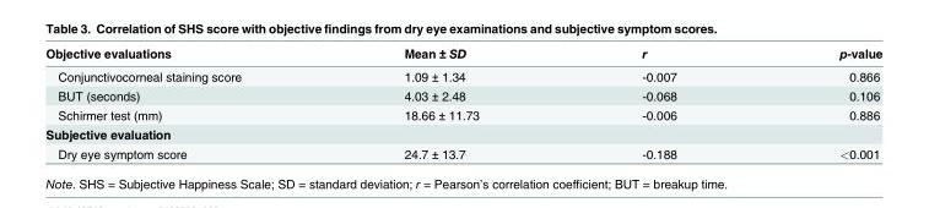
<table><thead><tr><td>Objective evaluations</td><td>Mean ± SD</td><td>r</td><td>p-value</td></tr></thead><tbody><tr><td>Conjunctivocorneal staining score</td><td>1.09 ± 1.34</td><td>-0.007</td><td>0.866</td></tr><tr><td>BUT (seconds)</td><td>4.03 ± 2.48</td><td>-0.068</td><td>0.106</td></tr><tr><td>Schirmer test (mm)</td><td>18.66 ± 11.73</td><td>-0.006</td><td>0.886</td></tr><tr><td colspan="4">Subjective evaluation</td></tr><tr><td>Dry eye symptom score</td><td>24.7 ± 13.7</td><td>-0.188</td><td>&lt;0.001</td></tr></tbody></table>